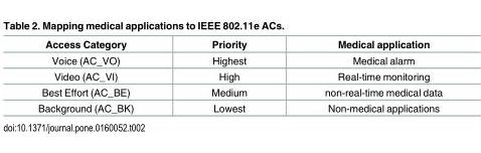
<table><thead><tr><td>Access Category</td><td>Priority</td><td>Medical application</td></tr></thead><tbody><tr><td>Voice (AC_VO)</td><td>Highest</td><td>Medical alarm</td></tr><tr><td>Video (AC_VI)</td><td>High</td><td>Real-time monitoring</td></tr><tr><td>Best Effort (AC_BE)</td><td>Medium</td><td>non-real-time medical data</td></tr><tr><td>Background (AC_BK)</td><td>Lowest</td><td>Non-medical applications</td></tr></tbody></table>